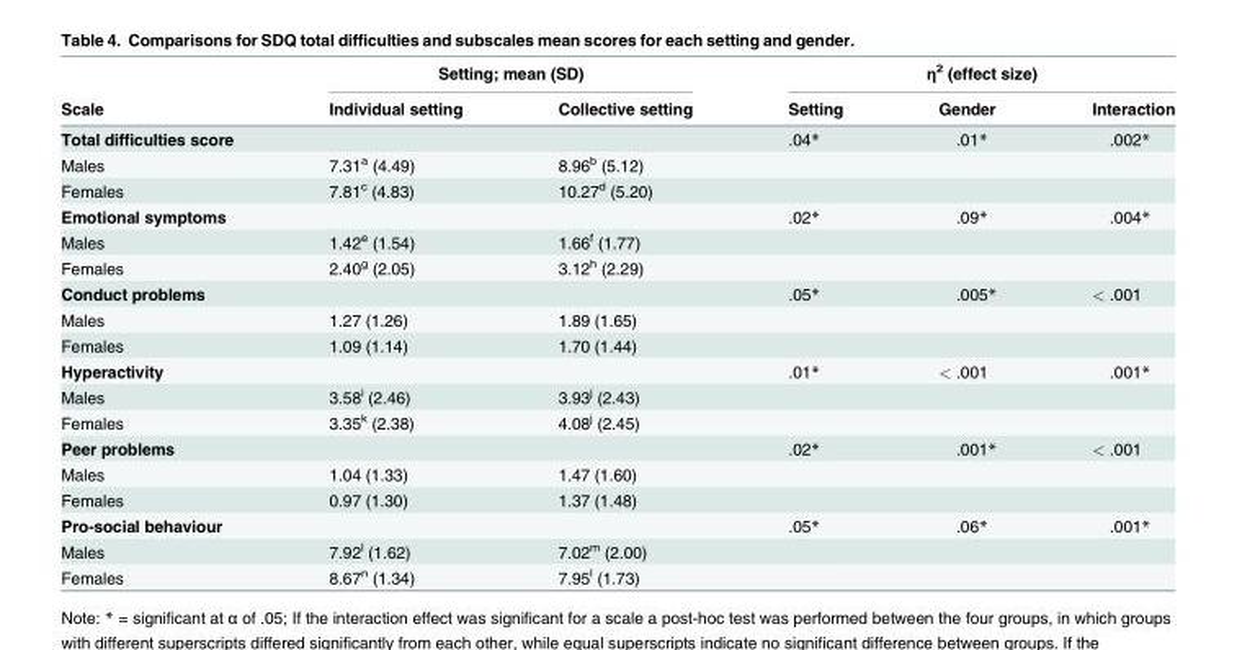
<table><thead><tr><td rowspan="2">Scale</td><td colspan="2">Setting; mean (SD)</td><td colspan="3">η<sup>2</sup> (effect size)</td></tr><tr><td>Individual setting</td><td>Collective setting</td><td>Setting</td><td>Gender</td><td>Interaction</td></tr></thead><tbody><tr><td>Total difficulties score</td><td></td><td></td><td>.04*</td><td>.01*</td><td>.002*</td></tr><tr><td>Males</td><td>7.31<sup>a</sup> (4.49)</td><td>8.96<sup>b</sup> (5.12)</td><td></td><td></td><td></td></tr><tr><td>Females</td><td>7.81<sup>c</sup> (4.83)</td><td>10.27<sup>d</sup> (5.20)</td><td></td><td></td><td></td></tr><tr><td>Emotional symptoms</td><td></td><td></td><td>.02*</td><td>.09*</td><td>.004*</td></tr><tr><td>Males</td><td>1.42<sup>e</sup> (1.54)</td><td>1.66<sup>f</sup> (1.77)</td><td></td><td></td><td></td></tr><tr><td>Females</td><td>2.40<sup>g</sup> (2.05)</td><td>3.12<sup>h</sup> (2.29)</td><td></td><td></td><td></td></tr><tr><td>Conduct problems</td><td></td><td></td><td>.05*</td><td>.005*</td><td>&lt; .001</td></tr><tr><td>Males</td><td>1.27 (1.26)</td><td>1.89 (1.65)</td><td></td><td></td><td></td></tr><tr><td>Females</td><td>1.09 (1.14)</td><td>1.70 (1.44)</td><td></td><td></td><td></td></tr><tr><td>Hyperactivity</td><td></td><td></td><td>.01*</td><td>&lt; .001</td><td>.001*</td></tr><tr><td>Males</td><td>3.58<sup>i</sup> (2.46)</td><td>3.93<sup>j</sup> (2.43)</td><td></td><td></td><td></td></tr><tr><td>Females</td><td>3.35<sup>k</sup> (2.38)</td><td>4.08<sup>j</sup> (2.45)</td><td></td><td></td><td></td></tr><tr><td>Peer problems</td><td></td><td></td><td>.02*</td><td>.001*</td><td>&lt; .001</td></tr><tr><td>Males</td><td>1.04 (1.33)</td><td>1.47 (1.60)</td><td></td><td></td><td></td></tr><tr><td>Females</td><td>0.97 (1.30)</td><td>1.37 (1.48)</td><td></td><td></td><td></td></tr><tr><td>Pro-social behaviour</td><td></td><td></td><td>.05*</td><td>.06*</td><td>.001*</td></tr><tr><td>Males</td><td>7.92<sup>l</sup> (1.62)</td><td>7.02<sup>m</sup> (2.00)</td><td></td><td></td><td></td></tr><tr><td>Females</td><td>8.67<sup>n</sup> (1.34)</td><td>7.95<sup>l</sup> (1.73)</td><td></td><td></td><td></td></tr></tbody></table>